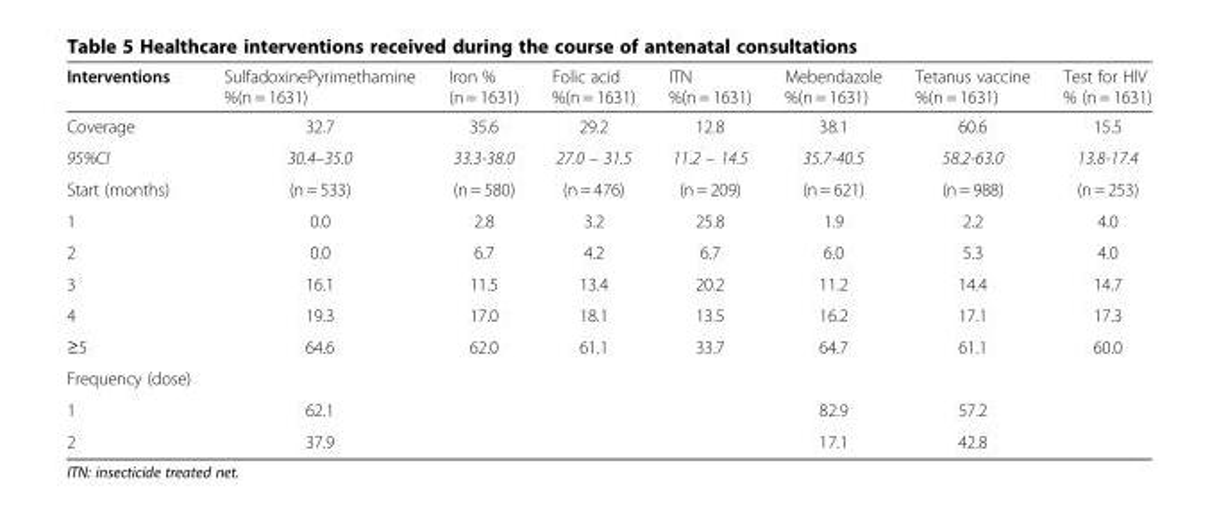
<table><thead><tr><td>Interventions</td><td>SulfadoxinePyrimethamine %(n = 1631)</td><td>Iron % (n = 1631)</td><td>Folic acid %(n = 1631)</td><td>ITN %(n = 1631)</td><td>Mebendazole %(n = 1631)</td><td>Tetanus vaccine %(n = 1631)</td><td>Test for HIV % (n = 1631)</td></tr></thead><tbody><tr><td>Coverage</td><td>32.7</td><td>35.6</td><td>29.2</td><td>12.8</td><td>38.1</td><td>60.6</td><td>15.5</td></tr><tr><td>95%CI</td><td>30.4–35.0</td><td>33.3-38.0</td><td>27.0 – 31.5</td><td>11.2 – 14.5</td><td>35.7-40.5</td><td>58.2-63.0</td><td>13.8-17.4</td></tr><tr><td>Start (months)</td><td>(n = 533)</td><td>(n = 580)</td><td>(n = 476)</td><td>(n = 209)</td><td>(n = 621)</td><td>(n = 988)</td><td>(n = 253)</td></tr><tr><td>1</td><td>0.0</td><td>2.8</td><td>3.2</td><td>25.8</td><td>1.9</td><td>2.2</td><td>4.0</td></tr><tr><td>2</td><td>0.0</td><td>6.7</td><td>4.2</td><td>6.7</td><td>6.0</td><td>5.3</td><td>4.0</td></tr><tr><td>3</td><td>16.1</td><td>11.5</td><td>13.4</td><td>20.2</td><td>11.2</td><td>14.4</td><td>14.7</td></tr><tr><td>4</td><td>19.3</td><td>17.0</td><td>18.1</td><td>13.5</td><td>16.2</td><td>17.1</td><td>17.3</td></tr><tr><td>≥5</td><td>64.6</td><td>62.0</td><td>61.1</td><td>33.7</td><td>64.7</td><td>61.1</td><td>60.0</td></tr><tr><td colspan="8">Frequency (dose)</td></tr><tr><td>1</td><td>62.1</td><td></td><td></td><td></td><td>82.9</td><td>57.2</td><td></td></tr><tr><td>2</td><td>37.9</td><td></td><td></td><td></td><td>17.1</td><td>42.8</td><td></td></tr></tbody></table>